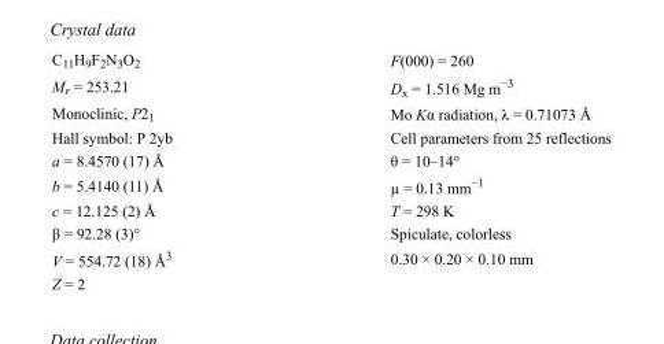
<table><tbody><tr><td>C<sub>11</sub>H<sub>9</sub>F<sub>2</sub>N<sub>3</sub>O<sub>2</sub></td><td>F(000) = 260</td></tr><tr><td>M<sub>r</sub> = 253.21</td><td>D<sub>x</sub> = 1.516 Mg m<sup>−3</sup></td></tr><tr><td>Monoclinic, P2<sub>1</sub></td><td>Mo Kα radiation, λ = 0.71073 Å</td></tr><tr><td>Hall symbol: P 2yb</td><td>Cell parameters from 25 reflections</td></tr><tr><td>a = 8.4570 (17) Å</td><td>θ = 10–14°</td></tr><tr><td>b = 5.4140 (11) Å</td><td>µ = 0.13 mm<sup>−1</sup></td></tr><tr><td>c = 12.125 (2) Å</td><td>T = 298 K</td></tr><tr><td>β = 92.28 (3)°</td><td>Spiculate, colorless</td></tr><tr><td>V = 554.72 (18) Å<sup>3</sup></td><td>0.30 × 0.20 × 0.10 mm</td></tr><tr><td>Z = 2</td><td></td></tr></tbody></table>